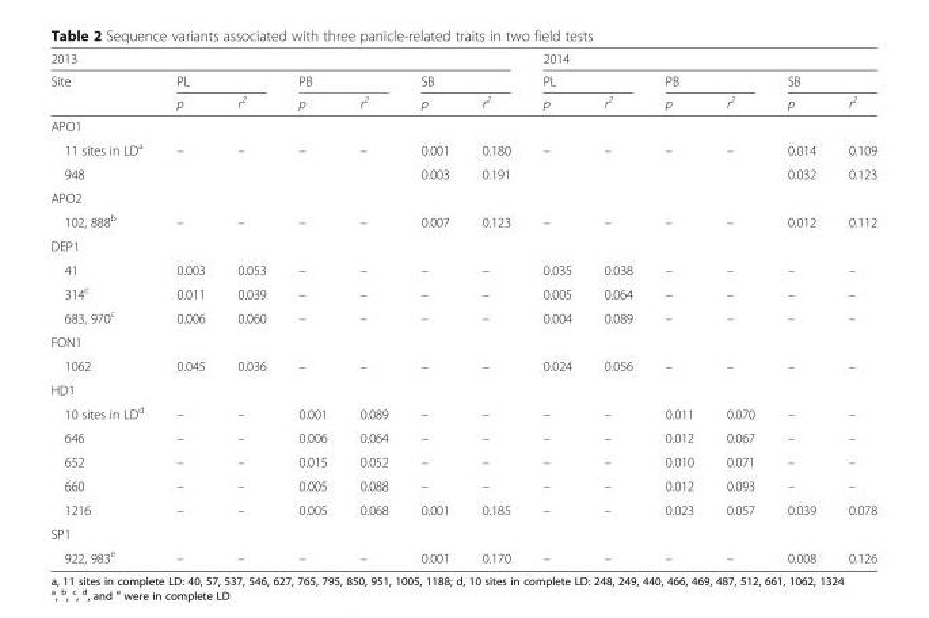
<table><thead><tr><td colspan="7">2013</td><td colspan="6">2014</td></tr><tr><td rowspan="2">Site</td><td colspan="2">PL</td><td colspan="2">PB</td><td colspan="2">SB</td><td colspan="2">PL</td><td colspan="2">PB</td><td colspan="2">SB</td></tr><tr><td>p</td><td>r<sup>2</sup></td><td>p</td><td>r<sup>2</sup></td><td>p</td><td>r<sup>2</sup></td><td>p</td><td>r<sup>2</sup></td><td>p</td><td>r<sup>2</sup></td><td>p</td><td>r<sup>2</sup></td></tr></thead><tbody><tr><td colspan="13">APO1</td></tr><tr><td>11 sites in LD<sup>a</sup></td><td>–</td><td>–</td><td>–</td><td>–</td><td>0.001</td><td>0.180</td><td>–</td><td>–</td><td>–</td><td>–</td><td>0.014</td><td>0.109</td></tr><tr><td>948</td><td></td><td></td><td></td><td></td><td>0.003</td><td>0.191</td><td></td><td></td><td></td><td></td><td>0.032</td><td>0.123</td></tr><tr><td colspan="13">APO2</td></tr><tr><td>102, 888<sup>b</sup></td><td>–</td><td>–</td><td>–</td><td>–</td><td>0.007</td><td>0.123</td><td>–</td><td>–</td><td>–</td><td>–</td><td>0.012</td><td>0.112</td></tr><tr><td colspan="13">DEP1</td></tr><tr><td>41</td><td>0.003</td><td>0.053</td><td>–</td><td>–</td><td>–</td><td>–</td><td>0.035</td><td>0.038</td><td>–</td><td>–</td><td>–</td><td>–</td></tr><tr><td>314<sup>c</sup></td><td>0.011</td><td>0.039</td><td>–</td><td>–</td><td>–</td><td>–</td><td>0.005</td><td>0.064</td><td>–</td><td>–</td><td>–</td><td>–</td></tr><tr><td>683, 970<sup>c</sup></td><td>0.006</td><td>0.060</td><td>–</td><td>–</td><td>–</td><td>–</td><td>0.004</td><td>0.089</td><td>–</td><td>–</td><td>–</td><td>–</td></tr><tr><td colspan="13">FON1</td></tr><tr><td>1062</td><td>0.045</td><td>0.036</td><td>–</td><td>–</td><td>–</td><td>–</td><td>0.024</td><td>0.056</td><td>–</td><td>–</td><td>–</td><td>–</td></tr><tr><td colspan="13">HD1</td></tr><tr><td>10 sites in LD<sup>d</sup></td><td>–</td><td>–</td><td>0.001</td><td>0.089</td><td>–</td><td>–</td><td>–</td><td>–</td><td>0.011</td><td>0.070</td><td>–</td><td>–</td></tr><tr><td>646</td><td>–</td><td>–</td><td>0.006</td><td>0.064</td><td>–</td><td>–</td><td>–</td><td>–</td><td>0.012</td><td>0.067</td><td>–</td><td>–</td></tr><tr><td>652</td><td>–</td><td>–</td><td>0.015</td><td>0.052</td><td>–</td><td>–</td><td>–</td><td>–</td><td>0.010</td><td>0.071</td><td>–</td><td>–</td></tr><tr><td>660</td><td>–</td><td>–</td><td>0.005</td><td>0.088</td><td>–</td><td>–</td><td>–</td><td>–</td><td>0.012</td><td>0.093</td><td>–</td><td>–</td></tr><tr><td>1216</td><td>–</td><td>–</td><td>0.005</td><td>0.068</td><td>0.001</td><td>0.185</td><td>–</td><td>–</td><td>0.023</td><td>0.057</td><td>0.039</td><td>0.078</td></tr><tr><td colspan="13">SP1</td></tr><tr><td>922, 983<sup>e</sup></td><td>–</td><td>–</td><td>–</td><td>–</td><td>0.001</td><td>0.170</td><td>–</td><td>–</td><td>–</td><td>–</td><td>0.008</td><td>0.126</td></tr></tbody></table>